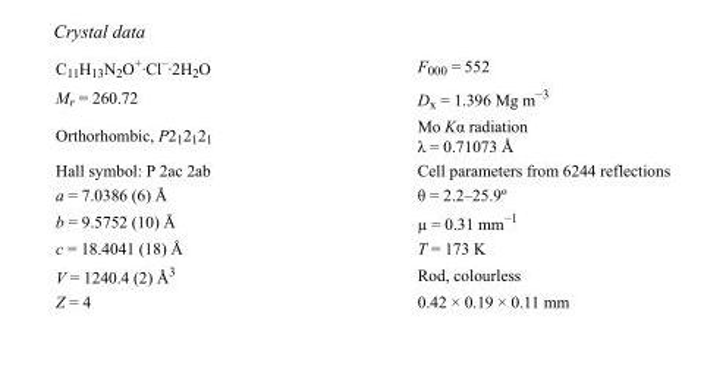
<table><tbody><tr><td>C<sub>11</sub>H<sub>13</sub>N<sub>2</sub>O<sup>+</sup>·Cl<sup>–</sup>·2H<sub>2</sub>O</td><td>F000 = 552</td></tr><tr><td>M<sub>r</sub> = 260.72</td><td>D<sub>x</sub> = 1.396 Mg m<sup>−3</sup></td></tr><tr><td>Orthorhombic, P2<sub>1</sub>2<sub>1</sub>2<sub>1</sub></td><td>Mo Kα radiation λ = 0.71073 Å</td></tr><tr><td>Hall symbol: P 2ac 2ab</td><td>Cell parameters from 6244 reflections</td></tr><tr><td>a = 7.0386 (6) Å</td><td>θ = 2.2–25.9º</td></tr><tr><td>b = 9.5752 (10) Å</td><td>µ = 0.31 mm<sup>−1</sup></td></tr><tr><td>c = 18.4041 (18) Å</td><td>T = 173 K</td></tr><tr><td>V = 1240.4 (2) Å<sup>3</sup></td><td>Rod, colourless</td></tr><tr><td>Z = 4</td><td>0.42 × 0.19 × 0.11 mm</td></tr></tbody></table>